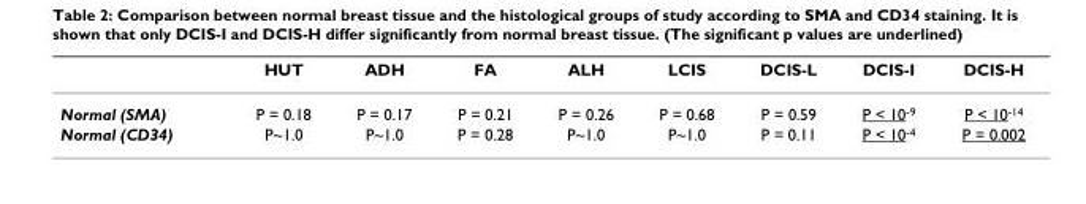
<table><thead><tr><td></td><td>HUT</td><td>ADH</td><td>FA</td><td>ALH</td><td>LCIS</td><td>DCIS-L</td><td>DCIS-I</td><td>DCIS-H</td></tr></thead><tbody><tr><td>Normal (SMA)</td><td>P = 0.18</td><td>P = 0.17</td><td>P = 0.21</td><td>P = 0.26</td><td>P = 0.68</td><td>P = 0.59</td><td>P &lt; 10<sup>-9</sup></td><td>P &lt; 10<sup>-14</sup></td></tr><tr><td>Normal (CD34)</td><td>P~1.0</td><td>P~1.0</td><td>P = 0.28</td><td>P~1.0</td><td>P~1.0</td><td>P = 0.11</td><td>P &lt; 10<sup>-4</sup></td><td>P = 0.002</td></tr></tbody></table>